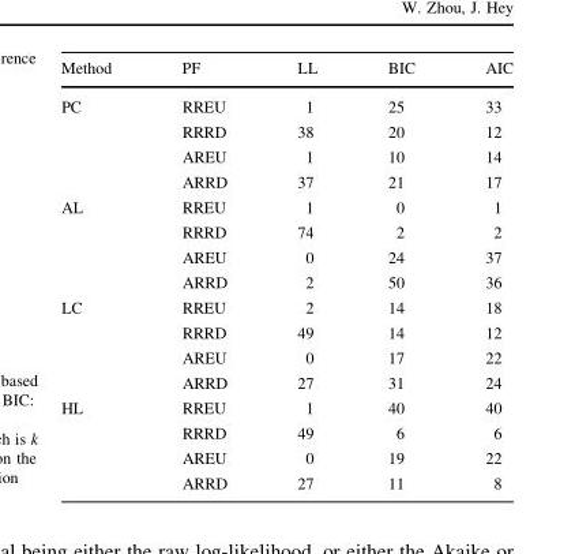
<table><thead><tr><td>Method</td><td>PF</td><td>LL</td><td>BIC</td><td>AIC</td></tr></thead><tbody><tr><td rowspan="4">PC</td><td>RREU</td><td>1</td><td>25</td><td>33</td></tr><tr><td>RRRD</td><td>38</td><td>20</td><td>12</td></tr><tr><td>AREU</td><td>1</td><td>10</td><td>14</td></tr><tr><td>ARRD</td><td>37</td><td>21</td><td>17</td></tr><tr><td rowspan="4">AL</td><td>RREU</td><td>1</td><td>0</td><td>1</td></tr><tr><td>RRRD</td><td>74</td><td>2</td><td>2</td></tr><tr><td>AREU</td><td>0</td><td>24</td><td>37</td></tr><tr><td>ARRD</td><td>2</td><td>50</td><td>36</td></tr><tr><td rowspan="4">LC</td><td>RREU</td><td>2</td><td>14</td><td>18</td></tr><tr><td>RRRD</td><td>49</td><td>14</td><td>12</td></tr><tr><td>AREU</td><td>0</td><td>17</td><td>22</td></tr><tr><td>ARRD</td><td>27</td><td>31</td><td>24</td></tr><tr><td rowspan="4">HL</td><td>RREU</td><td>1</td><td>40</td><td>40</td></tr><tr><td>RRRD</td><td>49</td><td>6</td><td>6</td></tr><tr><td>AREU</td><td>0</td><td>19</td><td>22</td></tr><tr><td>ARRD</td><td>27</td><td>11</td><td>8</td></tr></tbody></table>